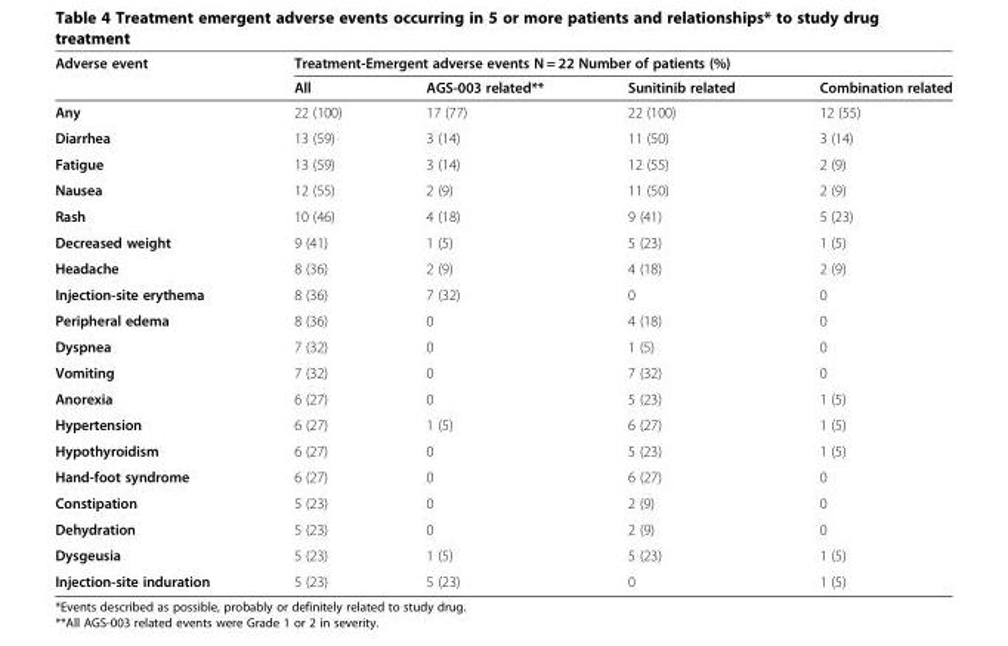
<table><thead><tr><td rowspan="2">Adverse event</td><td colspan="4">Treatment-Emergent adverse events N = 22 Number of patients (%)</td></tr><tr><td>All</td><td>AGS-003 related**</td><td>Sunitinib related</td><td>Combination related</td></tr></thead><tbody><tr><td>Any</td><td>22 (100)</td><td>17 (77)</td><td>22 (100)</td><td>12 (55)</td></tr><tr><td>Diarrhea</td><td>13 (59)</td><td>3 (14)</td><td>11 (50)</td><td>3 (14)</td></tr><tr><td>Fatigue</td><td>13 (59)</td><td>3 (14)</td><td>12 (55)</td><td>2 (9)</td></tr><tr><td>Nausea</td><td>12 (55)</td><td>2 (9)</td><td>11 (50)</td><td>2 (9)</td></tr><tr><td>Rash</td><td>10 (46)</td><td>4 (18)</td><td>9 (41)</td><td>5 (23)</td></tr><tr><td>Decreased weight</td><td>9 (41)</td><td>1 (5)</td><td>5 (23)</td><td>1 (5)</td></tr><tr><td>Headache</td><td>8 (36)</td><td>2 (9)</td><td>4 (18)</td><td>2 (9)</td></tr><tr><td>Injection-site erythema</td><td>8 (36)</td><td>7 (32)</td><td>0</td><td>0</td></tr><tr><td>Peripheral edema</td><td>8 (36)</td><td>0</td><td>4 (18)</td><td>0</td></tr><tr><td>Dyspnea</td><td>7 (32)</td><td>0</td><td>1 (5)</td><td>0</td></tr><tr><td>Vomiting</td><td>7 (32)</td><td>0</td><td>7 (32)</td><td>0</td></tr><tr><td>Anorexia</td><td>6 (27)</td><td>0</td><td>5 (23)</td><td>1 (5)</td></tr><tr><td>Hypertension</td><td>6 (27)</td><td>1 (5)</td><td>6 (27)</td><td>1 (5)</td></tr><tr><td>Hypothyroidism</td><td>6 (27)</td><td>0</td><td>5 (23)</td><td>1 (5)</td></tr><tr><td>Hand-foot syndrome</td><td>6 (27)</td><td>0</td><td>6 (27)</td><td>0</td></tr><tr><td>Constipation</td><td>5 (23)</td><td>0</td><td>2 (9)</td><td>0</td></tr><tr><td>Dehydration</td><td>5 (23)</td><td>0</td><td>2 (9)</td><td>0</td></tr><tr><td>Dysgeusia</td><td>5 (23)</td><td>1 (5)</td><td>5 (23)</td><td>1 (5)</td></tr><tr><td>Injection-site induration</td><td>5 (23)</td><td>5 (23)</td><td>0</td><td>1 (5)</td></tr></tbody></table>